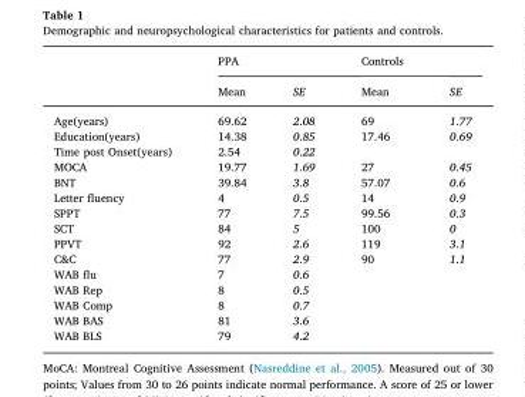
<table><thead><tr><td rowspan="2"></td><td rowspan="2">PPA Mean</td><td rowspan="2">SE</td><td rowspan="2">Controls Mean</td><td rowspan="2">SE</td></tr><tr></tr></thead><tbody><tr><td>Age(years)</td><td>69.62</td><td>2.08</td><td>69</td><td>1.77</td></tr><tr><td>Education(years)</td><td>14.38</td><td>0.85</td><td>17.46</td><td>0.69</td></tr><tr><td>Time post Onset(years)</td><td>2.54</td><td>0.22</td><td></td><td></td></tr><tr><td>MOCA</td><td>19.77</td><td>1.69</td><td>27</td><td>0.45</td></tr><tr><td>BNT</td><td>39.84</td><td>3.8</td><td>57.07</td><td>0.6</td></tr><tr><td>Letter fluency</td><td>4</td><td>0.5</td><td>14</td><td>0.9</td></tr><tr><td>SPPT</td><td>77</td><td>7.5</td><td>99.56</td><td>0.3</td></tr><tr><td>SCT</td><td>84</td><td>5</td><td>100</td><td>0</td></tr><tr><td>PPVT</td><td>92</td><td>2.6</td><td>119</td><td>3.1</td></tr><tr><td>C&amp;C</td><td>77</td><td>2.9</td><td>90</td><td>1.1</td></tr><tr><td>WAB flu</td><td>7</td><td>0.6</td><td></td><td></td></tr><tr><td>WAB Rep</td><td>8</td><td>0.5</td><td></td><td></td></tr><tr><td>WAB Comp</td><td>8</td><td>0.7</td><td></td><td></td></tr><tr><td>WAB BAS</td><td>81</td><td>3.6</td><td></td><td></td></tr><tr><td>WAB BLS</td><td>79</td><td>4.2</td><td></td><td></td></tr></tbody></table>